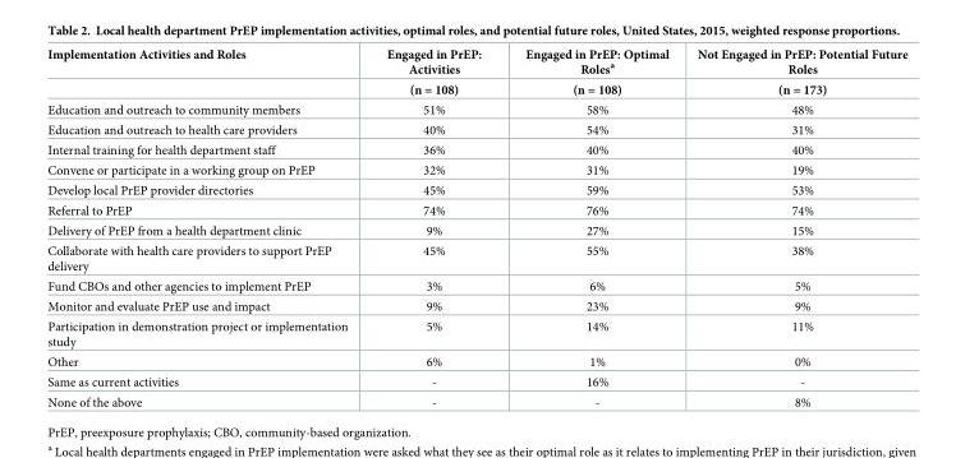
<table><thead><tr><td rowspan="2">Implementation Activities and Roles</td><td rowspan="2">Engaged in PrEP: Activities (n = 108)</td><td rowspan="2">Engaged in PrEP: Optimal Roles<sup>a</sup> (n = 108)</td><td rowspan="2">Not Engaged in PrEP: Potential Future Roles (n = 173)</td></tr><tr></tr></thead><tbody><tr><td>Education and outreach to community members</td><td>51%</td><td>58%</td><td>48%</td></tr><tr><td>Education and outreach to health care providers</td><td>40%</td><td>54%</td><td>31%</td></tr><tr><td>Internal training for health department staff</td><td>36%</td><td>40%</td><td>40%</td></tr><tr><td>Convene or participate in a working group on PrEP</td><td>32%</td><td>31%</td><td>19%</td></tr><tr><td>Develop local PrEP provider directories</td><td>45%</td><td>59%</td><td>53%</td></tr><tr><td>Referral to PrEP</td><td>74%</td><td>76%</td><td>74%</td></tr><tr><td>Delivery of PrEP from a health department clinic</td><td>9%</td><td>27%</td><td>15%</td></tr><tr><td>Collaborate with health care providers to support PrEP delivery</td><td>45%</td><td>55%</td><td>38%</td></tr><tr><td>Fund CBOs and other agencies to implement PrEP</td><td>3%</td><td>6%</td><td>5%</td></tr><tr><td>Monitor and evaluate PrEP use and impact</td><td>9%</td><td>23%</td><td>9%</td></tr><tr><td>Participation in demonstration project or implementation study</td><td>5%</td><td>14%</td><td>11%</td></tr><tr><td>Other</td><td>6%</td><td>1%</td><td>0%</td></tr><tr><td>Same as current activities</td><td>-</td><td>16%</td><td>-</td></tr><tr><td>None of the above</td><td>-</td><td>-</td><td>8%</td></tr></tbody></table>